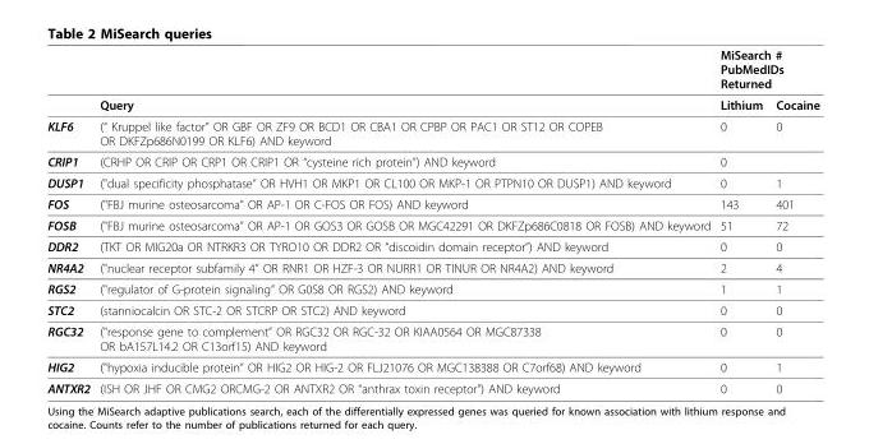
<table><thead><tr><td rowspan="2"></td><td rowspan="2">Query</td><td colspan="2">MiSearch # PubMedIDs Returned</td></tr><tr><td>Lithium</td><td>Cocaine</td></tr></thead><tbody><tr><td>KLF6</td><td>(“ Kruppel like factor” OR GBF OR ZF9 OR BCD1 OR CBA1 OR CPBP OR PAC1 OR ST12 OR COPEB OR DKFZp686N0199 OR KLF6) AND keyword</td><td>0</td><td>0</td></tr><tr><td>CRIP1</td><td>(CRHP OR CRIP OR CRP1 OR CRIP1 OR “cysteine rich protein”) AND keyword</td><td>0</td><td></td></tr><tr><td>DUSP1</td><td>(&quot;dual specificity phosphatase” OR HVH1 OR MKP1 OR CL100 OR MKP-1 OR PTPN10 OR DUSP1) AND keyword</td><td>0</td><td>1</td></tr><tr><td>FOS</td><td>(&quot;FBJ murine osteosarcoma” OR AP-1 OR C-FOS OR FOS) AND keyword</td><td>143</td><td>401</td></tr><tr><td>FOSB</td><td>(&quot;FBJ murine osteosarcoma” OR AP-1 OR GOS3 OR GOSB OR MGC42291 OR DKFZp686C0818 OR FOSB) AND keyword</td><td>51</td><td>72</td></tr><tr><td>DDR2</td><td>(TKT OR MIG20a OR NTRKR3 OR TYRO10 OR DDR2 OR “discoidin domain receptor”) AND keyword</td><td>0</td><td>0</td></tr><tr><td>NR4A2</td><td>(&quot;nuclear receptor subfamily 4” OR RNR1 OR HZF-3 OR NURR1 OR TINUR OR NR4A2) AND keyword</td><td>2</td><td>4</td></tr><tr><td>RGS2</td><td>(&quot;regulator of G-protein signaling” OR G0S8 OR RGS2) AND keyword</td><td>1</td><td>1</td></tr><tr><td>STC2</td><td>(stanniocalcin OR STC-2 OR STCRP OR STC2) AND keyword</td><td>0</td><td>0</td></tr><tr><td>RGC32</td><td>(&quot;response gene to complement” OR RGC32 OR RGC-32 OR KIAA0564 OR MGC87338 OR bA157L14.2 OR C13orf15) AND keyword</td><td>0</td><td>0</td></tr><tr><td>HIG2</td><td>(&quot;hypoxia inducible protein” OR HIG2 OR HIG-2 OR FLJ21076 OR MGC138388 OR C7orf68) AND keyword</td><td>0</td><td>1</td></tr><tr><td>ANTXR2</td><td>(ISH OR JHF OR CMG2 ORCMG-2 OR ANTXR2 OR “anthrax toxin receptor”) AND keyword</td><td>0</td><td>0</td></tr></tbody></table>